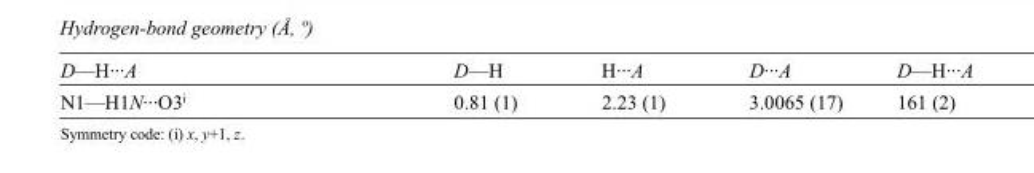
<table><tbody><tr><td>D—H···A</td><td>D—H</td><td>H···A</td><td>D···A</td><td>D—H···A</td></tr><tr><td>N1—H1N···O3<sup>i</sup></td><td>0.81 (1)</td><td>2.23 (1)</td><td>3.0065 (17)</td><td>161 (2)</td></tr></tbody></table>